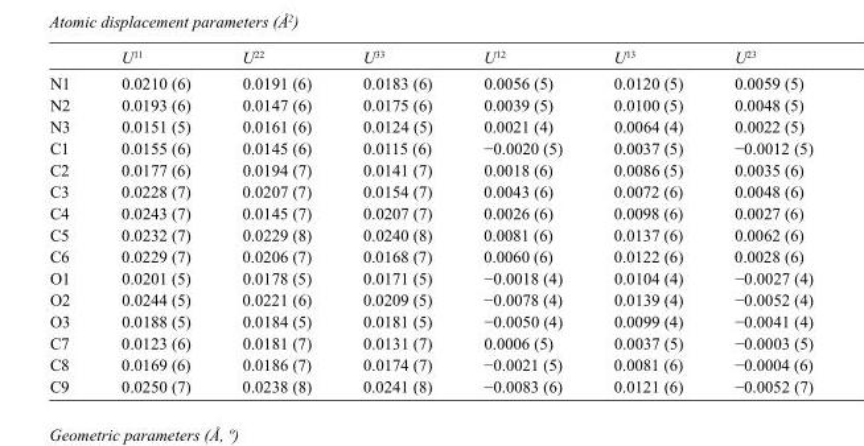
<table><thead><tr><td></td><td>U<sup>11</sup></td><td>U<sup>22</sup></td><td>U<sup>33</sup></td><td>U<sup>12</sup></td><td>U<sup>13</sup></td><td>U<sup>23</sup></td></tr></thead><tbody><tr><td>N1</td><td>0.0210 (6)</td><td>0.0191 (6)</td><td>0.0183 (6)</td><td>0.0056 (5)</td><td>0.0120 (5)</td><td>0.0059 (5)</td></tr><tr><td>N2</td><td>0.0193 (6)</td><td>0.0147 (6)</td><td>0.0175 (6)</td><td>0.0039 (5)</td><td>0.0100 (5)</td><td>0.0048 (5)</td></tr><tr><td>N3</td><td>0.0151 (5)</td><td>0.0161 (6)</td><td>0.0124 (5)</td><td>0.0021 (4)</td><td>0.0064 (4)</td><td>0.0022 (5)</td></tr><tr><td>C1</td><td>0.0155 (6)</td><td>0.0145 (6)</td><td>0.0115 (6)</td><td>−0.0020 (5)</td><td>0.0037 (5)</td><td>−0.0012 (5)</td></tr><tr><td>C2</td><td>0.0177 (6)</td><td>0.0194 (7)</td><td>0.0141 (7)</td><td>0.0018 (6)</td><td>0.0086 (5)</td><td>0.0035 (6)</td></tr><tr><td>C3</td><td>0.0228 (7)</td><td>0.0207 (7)</td><td>0.0154 (7)</td><td>0.0043 (6)</td><td>0.0072 (6)</td><td>0.0048 (6)</td></tr><tr><td>C4</td><td>0.0243 (7)</td><td>0.0145 (7)</td><td>0.0207 (7)</td><td>0.0026 (6)</td><td>0.0098 (6)</td><td>0.0027 (6)</td></tr><tr><td>C5</td><td>0.0232 (7)</td><td>0.0229 (8)</td><td>0.0240 (8)</td><td>0.0081 (6)</td><td>0.0137 (6)</td><td>0.0062 (6)</td></tr><tr><td>C6</td><td>0.0229 (7)</td><td>0.0206 (7)</td><td>0.0168 (7)</td><td>0.0060 (6)</td><td>0.0122 (6)</td><td>0.0028 (6)</td></tr><tr><td>O1</td><td>0.0201 (5)</td><td>0.0178 (5)</td><td>0.0171 (5)</td><td>−0.0018 (4)</td><td>0.0104 (4)</td><td>−0.0027 (4)</td></tr><tr><td>O2</td><td>0.0244 (5)</td><td>0.0221 (6)</td><td>0.0209 (5)</td><td>−0.0078 (4)</td><td>0.0139 (4)</td><td>−0.0052 (4)</td></tr><tr><td>O3</td><td>0.0188 (5)</td><td>0.0184 (5)</td><td>0.0181 (5)</td><td>−0.0050 (4)</td><td>0.0099 (4)</td><td>−0.0041 (4)</td></tr><tr><td>C7</td><td>0.0123 (6)</td><td>0.0181 (7)</td><td>0.0131 (7)</td><td>0.0006 (5)</td><td>0.0037 (5)</td><td>−0.0003 (5)</td></tr><tr><td>C8</td><td>0.0169 (6)</td><td>0.0186 (7)</td><td>0.0174 (7)</td><td>−0.0021 (5)</td><td>0.0081 (6)</td><td>−0.0004 (6)</td></tr><tr><td>C9</td><td>0.0250 (7)</td><td>0.0238 (8)</td><td>0.0241 (8)</td><td>−0.0083 (6)</td><td>0.0121 (6)</td><td>−0.0052 (7)</td></tr></tbody></table>